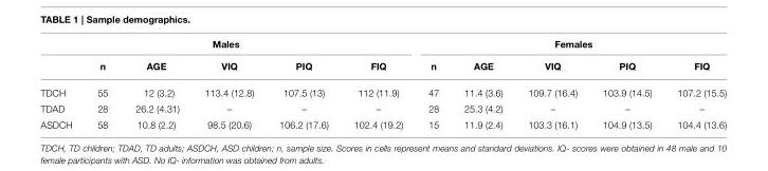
<table><thead><tr><td colspan="6">Males</td><td colspan="5">Females</td></tr><tr><td></td><td>n</td><td>AGE</td><td>VIQ</td><td>PIQ</td><td>FIQ</td><td>n</td><td>AGE</td><td>VIQ</td><td>PIQ</td><td>FIQ</td></tr></thead><tbody><tr><td>TDCH</td><td>55</td><td>12 (3.2)</td><td>113.4 (12.8)</td><td>107.5 (13)</td><td>112 (11.9)</td><td>47</td><td>11.4 (3.6)</td><td>109.7 (16.4)</td><td>103.9 (14.5)</td><td>107.2 (15.5)</td></tr><tr><td>TDAD</td><td>28</td><td>26.2 (4.31)</td><td>–</td><td>–</td><td>–</td><td>28</td><td>25.3 (4.2)</td><td>–</td><td>–</td><td>–</td></tr><tr><td>ASDCH</td><td>58</td><td>10.8 (2.2)</td><td>98.5 (20.6)</td><td>106.2 (17.6)</td><td>102.4 (19.2)</td><td>15</td><td>11.9 (2.4)</td><td>103.3 (16.1)</td><td>104.9 (13.5)</td><td>104.4 (13.6)</td></tr></tbody></table>